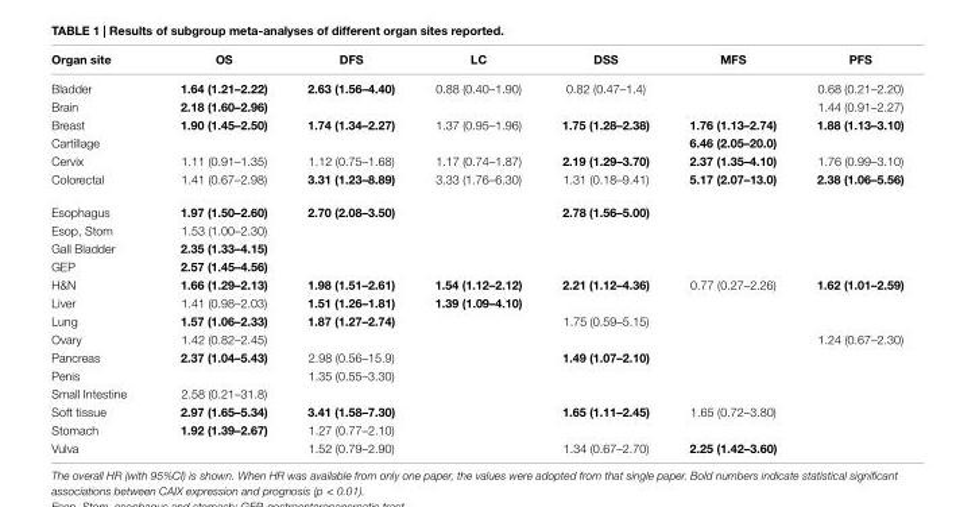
<table><thead><tr><td>Organ site</td><td>OS</td><td>DFS</td><td>LC</td><td>DSS</td><td>MFS</td><td>PFS</td></tr></thead><tbody><tr><td>Bladder</td><td>1.64 (1.21–2.22)</td><td>2.63 (1.56–4.40)</td><td>0.88 (0.40–1.90)</td><td>0.82 (0.47–1.4)</td><td></td><td>0.68 (0.21–2.20)</td></tr><tr><td>Brain</td><td>2.18 (1.60–2.96)</td><td></td><td></td><td></td><td></td><td>1.44 (0.91–2.27)</td></tr><tr><td>Breast</td><td>1.90 (1.45–2.50)</td><td>1.74 (1.34–2.27)</td><td>1.37 (0.95–1.96)</td><td>1.75 (1.28–2.38)</td><td>1.76 (1.13–2.74)</td><td>1.88 (1.13–3.10)</td></tr><tr><td>Cartillage</td><td></td><td></td><td></td><td></td><td>6.46 (2.05–20.0)</td><td></td></tr><tr><td>Cervix</td><td>1.11 (0.91–1.35)</td><td>1.12 (0.75–1.68)</td><td>1.17 (0.74–1.87)</td><td>2.19 (1.29–3.70)</td><td>2.37 (1.35–4.10)</td><td>1.76 (0.99–3.10)</td></tr><tr><td>Colorectal</td><td>1.41 (0.67–2.98)</td><td>3.31 (1.23–8.89)</td><td>3.33 (1.76–6.30)</td><td>1.31 (0.18–9.41)</td><td>5.17 (2.07–13.0)</td><td>2.38 (1.06–5.56)</td></tr><tr><td>Esophagus</td><td>1.97 (1.50–2.60)</td><td>2.70 (2.08–3.50)</td><td></td><td>2.78 (1.56–5.00)</td><td></td><td></td></tr><tr><td>Esop, Stom</td><td>1.53 (1.00–2.30)</td><td></td><td></td><td></td><td></td><td></td></tr><tr><td>Gall Bladder</td><td>2.35 (1.33–4.15)</td><td></td><td></td><td></td><td></td><td></td></tr><tr><td>GEP</td><td>2.57 (1.45–4.56)</td><td></td><td></td><td></td><td></td><td></td></tr><tr><td>H&amp;N</td><td>1.66 (1.29–2.13)</td><td>1.98 (1.51–2.61)</td><td>1.54 (1.12–2.12)</td><td>2.21 (1.12–4.36)</td><td>0.77 (0.27–2.26)</td><td>1.62 (1.01–2.59)</td></tr><tr><td>Liver</td><td>1.41 (0.98–2.03)</td><td>1.51 (1.26–1.81)</td><td>1.39 (1.09–4.10)</td><td></td><td></td><td></td></tr><tr><td>Lung</td><td>1.57 (1.06–2.33)</td><td>1.87 (1.27–2.74)</td><td></td><td>1.75 (0.59–5.15)</td><td></td><td></td></tr><tr><td>Ovary</td><td>1.42 (0.82–2.45)</td><td></td><td></td><td></td><td></td><td>1.24 (0.67–2.30)</td></tr><tr><td>Pancreas</td><td>2.37 (1.04–5.43)</td><td>2.98 (0.56–15.9)</td><td></td><td>1.49 (1.07–2.10)</td><td></td><td></td></tr><tr><td>Penis</td><td></td><td>1.35 (0.55–3.30)</td><td></td><td></td><td></td><td></td></tr><tr><td>Small Intestine</td><td>2.58 (0.21–31.8)</td><td></td><td></td><td></td><td></td><td></td></tr><tr><td>Soft tissue</td><td>2.97 (1.65–5.34)</td><td>3.41 (1.58–7.30)</td><td></td><td>1.65 (1.11–2.45)</td><td>1.65 (0.72–3.80)</td><td></td></tr><tr><td>Stomach</td><td>1.92 (1.39–2.67)</td><td>1.27 (0.77–2.10)</td><td></td><td></td><td></td><td></td></tr><tr><td>Vulva</td><td></td><td>1.52 (0.79–2.90)</td><td></td><td>1.34 (0.67–2.70)</td><td>2.25 (1.42–3.60)</td><td></td></tr></tbody></table>